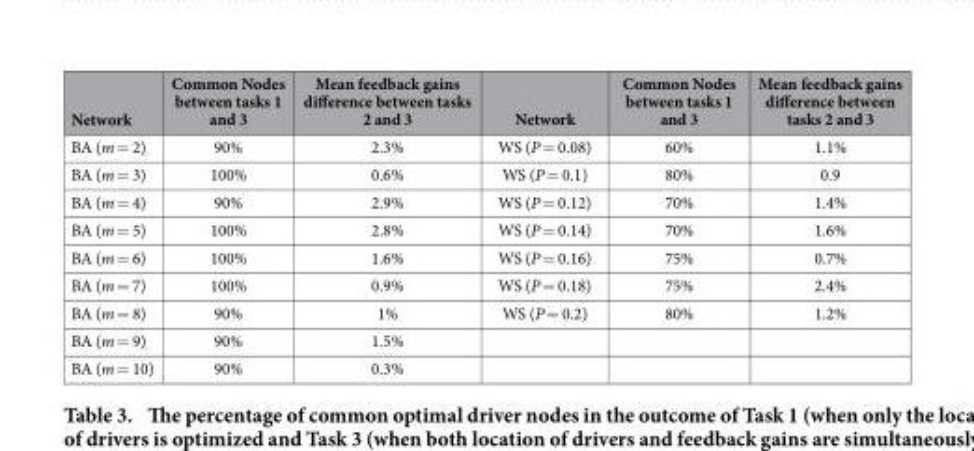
<table><thead><tr><td>Network</td><td>Common Nodes between tasks 1 and 3</td><td>Mean feedback gains difference between tasks 2 and 3</td><td>Network</td><td>Common Nodes between tasks 1 and 3</td><td>Mean feedback gains difference between tasks 2 and 3</td></tr></thead><tbody><tr><td>BA (m = 2)</td><td>90%</td><td>2.3%</td><td>WS (P = 0.08)</td><td>60%</td><td>1.1%</td></tr><tr><td>BA (m = 3)</td><td>100%</td><td>0.6%</td><td>WS (P = 0.1)</td><td>80%</td><td>0.9</td></tr><tr><td>BA (m = 4)</td><td>90%</td><td>2.9%</td><td>WS (P = 0.12)</td><td>70%</td><td>1.4%</td></tr><tr><td>BA (m = 5)</td><td>100%</td><td>2.8%</td><td>WS (P = 0.14)</td><td>70%</td><td>1.6%</td></tr><tr><td>BA (m = 6)</td><td>100%</td><td>1.6%</td><td>WS (P = 0.16)</td><td>75%</td><td>0.7%</td></tr><tr><td>BA (m = 7)</td><td>100%</td><td>0.9%</td><td>WS (P = 0.18)</td><td>75%</td><td>2.4%</td></tr><tr><td>BA (m = 8)</td><td>90%</td><td>1%</td><td>WS (P = 0.2)</td><td>80%</td><td>1.2%</td></tr><tr><td>BA (m = 9)</td><td>90%</td><td>1.5%</td><td></td><td></td><td></td></tr><tr><td>BA (m = 10)</td><td>90%</td><td>0.3%</td><td></td><td></td><td></td></tr></tbody></table>